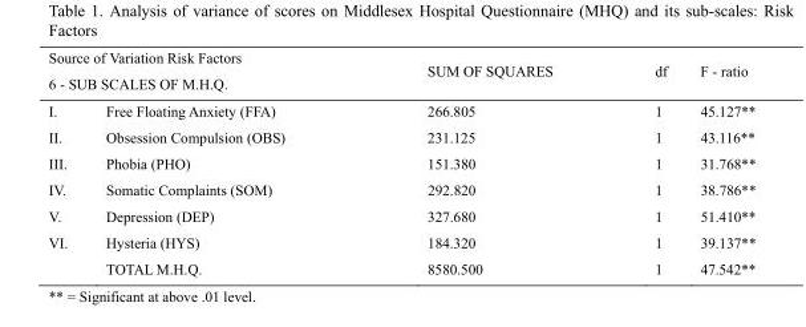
<table><thead><tr><td colspan="2">Source of Variation Risk Factors 6 - SUB SCALES OF M.H.Q.</td><td rowspan="2">SUM OF SQUARES 266.805</td><td rowspan="2">df 1</td><td rowspan="2">F - ratio 45.127**</td></tr><tr><td>I.</td><td>Free Floating Anxiety (FFA)</td></tr></thead><tbody><tr><td>II.</td><td>Obsession Compulsion (OBS)</td><td>231.125</td><td>1</td><td>43.116**</td></tr><tr><td>III.</td><td>Phobia (PHO)</td><td>151.380</td><td>1</td><td>31.768**</td></tr><tr><td>IV.</td><td>Somatic Complaints (SOM)</td><td>292.820</td><td>1</td><td>38.786**</td></tr><tr><td>V.</td><td>Depression (DEP)</td><td>327.680</td><td>1</td><td>51.410**</td></tr><tr><td rowspan="2">VI.</td><td>Hysteria (HYS)</td><td>184.320</td><td>1</td><td>39.137**</td></tr><tr><td>TOTAL M.H.Q.</td><td>8580.500</td><td>1</td><td>47.542**</td></tr></tbody></table>